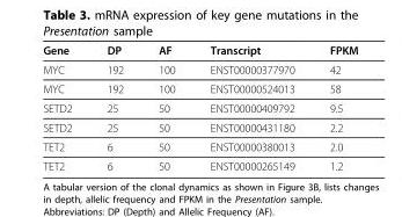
<table><thead><tr><td>Gene</td><td>DP</td><td>AF</td><td>Transcript</td><td>FPKM</td></tr></thead><tbody><tr><td>MYC</td><td>192</td><td>100</td><td>ENST00000377970</td><td>42</td></tr><tr><td>MYC</td><td>192</td><td>100</td><td>ENST00000524013</td><td>58</td></tr><tr><td>SETD2</td><td>25</td><td>50</td><td>ENST00000409792</td><td>9.5</td></tr><tr><td>SETD2</td><td>25</td><td>50</td><td>ENST00000431180</td><td>2.2</td></tr><tr><td>TET2</td><td>6</td><td>50</td><td>ENST00000380013</td><td>2.0</td></tr><tr><td>TET2</td><td>6</td><td>50</td><td>ENST00000265149</td><td>1.2</td></tr></tbody></table>